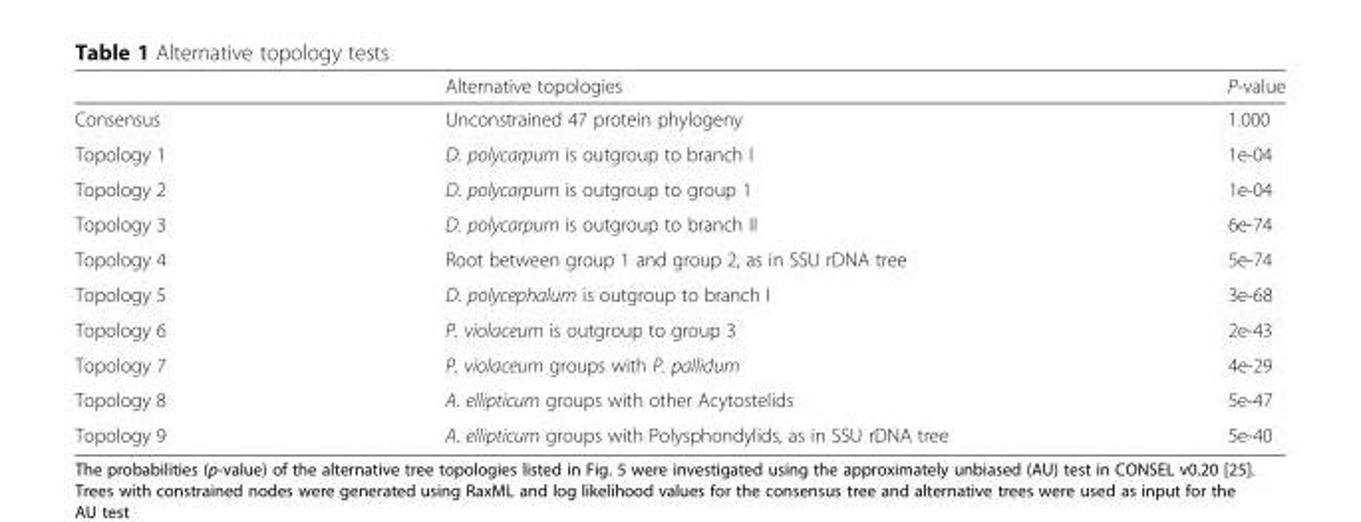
<table><thead><tr><td></td><td>Alternative topologies</td><td>P-value</td></tr></thead><tbody><tr><td>Consensus</td><td>Unconstrained 47 protein phylogeny</td><td>1.000</td></tr><tr><td>Topology 1</td><td>D. polycarpum is outgroup to branch I</td><td>1e-04</td></tr><tr><td>Topology 2</td><td>D. polycarpum is outgroup to group 1</td><td>1e-04</td></tr><tr><td>Topology 3</td><td>D. polycarpum is outgroup to branch II</td><td>6e-74</td></tr><tr><td>Topology 4</td><td>Root between group 1 and group 2, as in SSU rDNA tree</td><td>5e-74</td></tr><tr><td>Topology 5</td><td>D. polycephalum is outgroup to branch I</td><td>3e-68</td></tr><tr><td>Topology 6</td><td>P. violaceum is outgroup to group 3</td><td>2e-43</td></tr><tr><td>Topology 7</td><td>P. violaceum groups with P. pallidum</td><td>4e-29</td></tr><tr><td>Topology 8</td><td>A. ellipticum groups with other Acytostelids</td><td>5e-47</td></tr><tr><td>Topology 9</td><td>A. ellipticum groups with Polysphondylids, as in SSU rDNA tree</td><td>5e-40</td></tr></tbody></table>